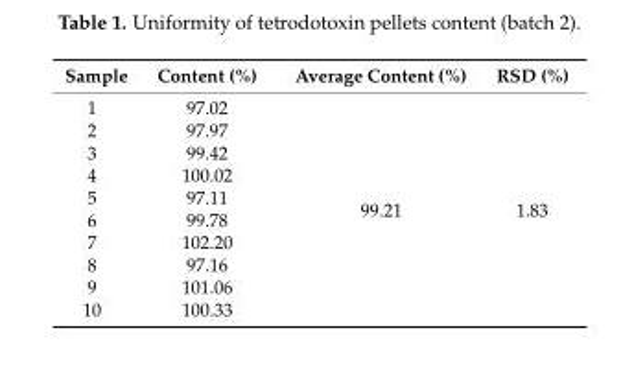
<table><thead><tr><td>Sample</td><td>Content (%)</td><td>Average Content (%)</td><td>RSD (%)</td></tr></thead><tbody><tr><td>1</td><td>97.02</td><td rowspan="10">99.21</td><td rowspan="10">1.83</td></tr><tr><td>2</td><td>97.97</td></tr><tr><td>3</td><td>99.42</td></tr><tr><td>4</td><td>100.02</td></tr><tr><td>5</td><td>97.11</td></tr><tr><td>6</td><td>99.78</td></tr><tr><td>7</td><td>102.20</td></tr><tr><td>8</td><td>97.16</td></tr><tr><td>9</td><td>101.06</td></tr><tr><td>10</td><td>100.33</td></tr></tbody></table>